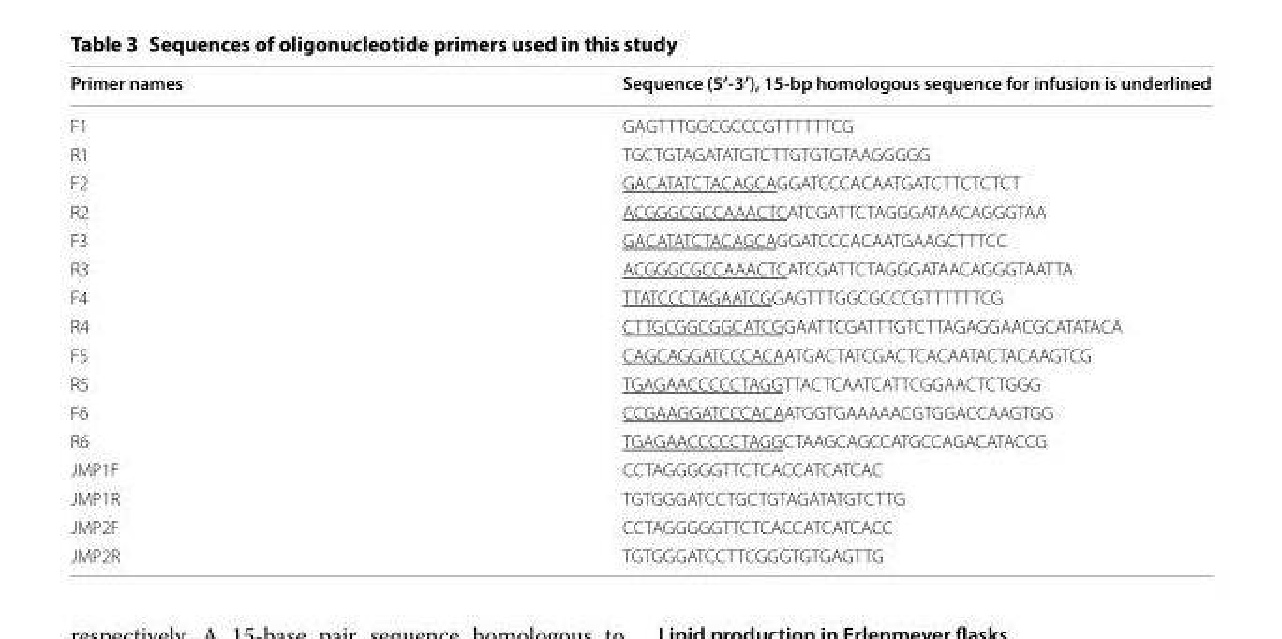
<table><thead><tr><td>Primer names</td><td>Sequence (5′-3′), 15-bp homologous sequence for infusion is underlined</td></tr></thead><tbody><tr><td>F1</td><td>GAG TTT GGC GCC CGT TTT TTCG</td></tr><tr><td>R1</td><td>TGC TGT AGA TAT GTC TTG TGT GTA AGG GGG</td></tr><tr><td>F2</td><td>GAC ATA TCT ACA GCA GGA TCC CAC AAT GAT CTT CTC TCT</td></tr><tr><td>R2</td><td>ACG GGC GCC AAA CTC ATC GAT TCT AGG GAT AAC AGG GTA A</td></tr><tr><td>F3</td><td>GAC ATA TCT ACA GCA GGA TCC CAC AAT GAA GCT TTCC</td></tr><tr><td>R3</td><td>ACG GGC GCC AAA CTC ATC GAT TCT AGG GAT AAC AGG GTA ATTA</td></tr><tr><td>F4</td><td>TTA TCC CTA GAA TCG GAG TTT GGC GCC CGT TTT TTCG</td></tr><tr><td>R4</td><td>CTT GCG GCG GCA TCG GAA TTC GAT TTG TCT TAG AGG AAC GCA TAT ACA</td></tr><tr><td>F5</td><td>CAG CAG GAT CCC ACA ATG ACT ATC GAC TCA CAA TAC TAC AAG TCG</td></tr><tr><td>R5</td><td>TGA GAA CCC CCT AGG TTA CTC AAT CAT TCG GAA CTC TGG G</td></tr><tr><td>F6</td><td>CCG AAG GAT CCC ACA ATG GTG AAA AAC GTG GAC CAA GTG G</td></tr><tr><td>R6</td><td>TGA GAA CCC CCT AGG CTA AGC AGC CAT GCC AGA CAT ACC G</td></tr><tr><td>JMP1F</td><td>CCT AGG GGG TTC TCA CCA TCA TCA C</td></tr><tr><td>JMP1R</td><td>TGT GGG ATC CTG CTG TAG ATA TGT CTTG</td></tr><tr><td>JMP2F</td><td>CCT AGG GGG TTC TCA CCA TCA TCA CC</td></tr><tr><td>JMP2R</td><td>TGT GGG ATC CTT CGG GTG TGA GTT G</td></tr></tbody></table>